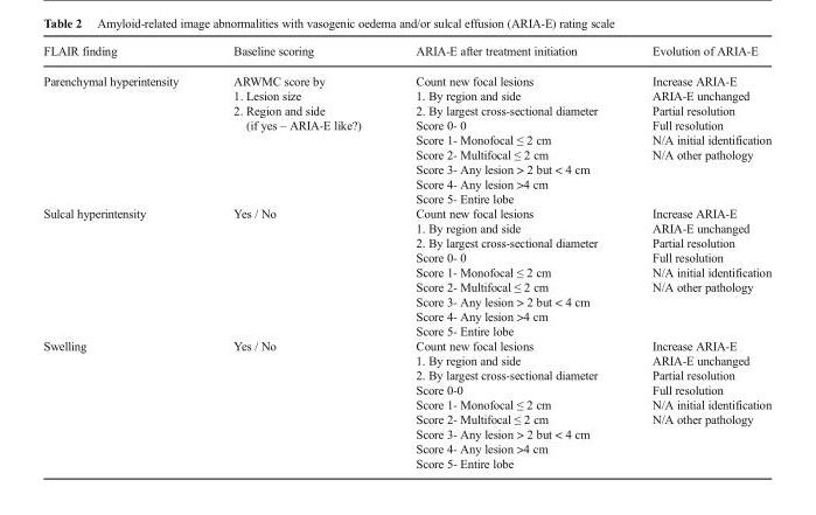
<table><thead><tr><td>FLAIR finding</td><td>Baseline scoring</td><td>ARIA-E after treatment initiation</td><td>Evolution of ARIA-E</td></tr></thead><tbody><tr><td>Parenchymal hyperintensity</td><td>ARWMC score by 1. Lesion size 2. Region and side (if yes – ARIA-E like?)</td><td>Count new focal lesions 1. By region and side 2. By largest cross-sectional diameter Score 0- 0 Score 1- Monofocal ≤ 2 cm Score 2- Multifocal ≤ 2 cm Score 3- Any lesion &gt; 2 but &lt; 4 cm Score 4- Any lesion &gt;4 cm Score 5- Entire lobe</td><td>Increase ARIA-E ARIA-E unchanged Partial resolution Full resolution N/A initial identification N/A other pathology</td></tr><tr><td>Sulcal hyperintensity</td><td>Yes / No</td><td>Count new focal lesions 1. By region and side 2. By largest cross-sectional diameter Score 0- 0 Score 1- Monofocal ≤ 2 cm Score 2- Multifocal ≤ 2 cm Score 3- Any lesion &gt; 2 but &lt; 4 cm Score 4- Any lesion &gt;4 cm Score 5- Entire lobe</td><td>Increase ARIA-E ARIA-E unchanged Partial resolution Full resolution N/A initial identification N/A other pathology</td></tr><tr><td>Swelling</td><td>Yes / No</td><td>Count new focal lesions 1. By region and side 2. By largest cross-sectional diameter Score 0-0 Score 1- Monofocal ≤ 2 cm Score 2- Multifocal ≤ 2 cm Score 3- Any lesion &gt; 2 but &lt; 4 cm Score 4- Any lesion &gt;4 cm Score 5- Entire lobe</td><td>Increase ARIA-E ARIA-E unchanged Partial resolution Full resolution N/A initial identification N/A other pathology</td></tr></tbody></table>